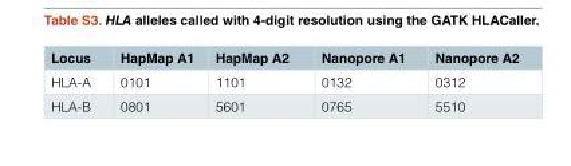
<table><thead><tr><td>Locus</td><td>HapMap A1</td><td>HapMap A2</td><td>Nanopore A1</td><td>Nanopore A2</td></tr></thead><tbody><tr><td>HLA-A</td><td>0101</td><td>1101</td><td>0132</td><td>0312</td></tr><tr><td>HLA-B</td><td>0801</td><td>5601</td><td>0765</td><td>5510</td></tr></tbody></table>